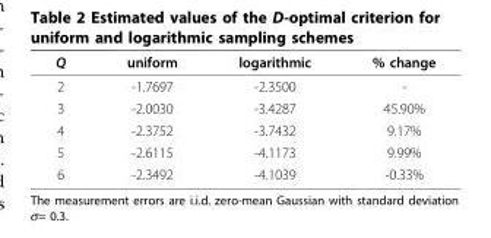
<table><thead><tr><td>Q</td><td>uniform</td><td>logarithmic</td><td>% change</td></tr></thead><tbody><tr><td>2</td><td>-1.7697</td><td>-2.3500</td><td>-</td></tr><tr><td>3</td><td>-2.0030</td><td>-3.4287</td><td>45.90%</td></tr><tr><td>4</td><td>-2.3752</td><td>-3.7432</td><td>9.17%</td></tr><tr><td>5</td><td>-2.6115</td><td>-4.1173</td><td>9.99%</td></tr><tr><td>6</td><td>-2.3492</td><td>-4.1039</td><td>-0.33%</td></tr></tbody></table>